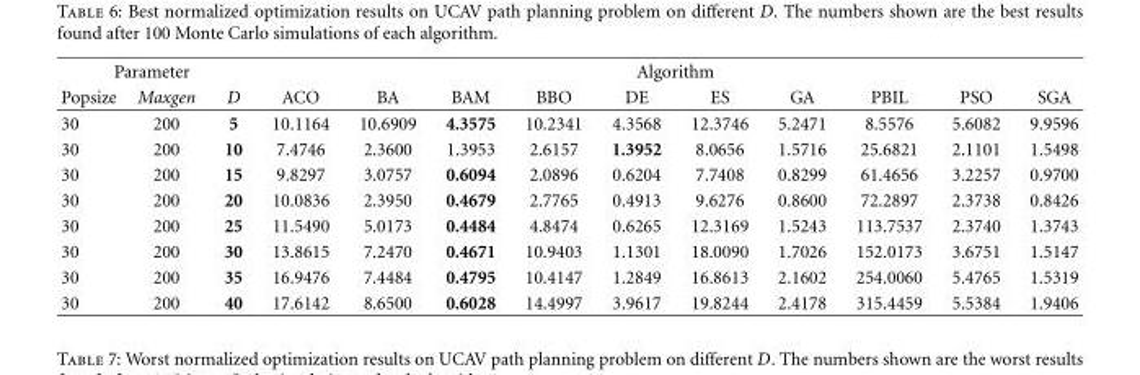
<table><thead><tr><td colspan="3">Parameter</td><td colspan="10">Algorithm</td></tr><tr><td>Popsize</td><td>Maxgen</td><td>D</td><td>ACO</td><td>BA</td><td>BAM</td><td>BBO</td><td>DE</td><td>ES</td><td>GA</td><td>PBIL</td><td>PSO</td><td>SGA</td></tr></thead><tbody><tr><td>30</td><td>200</td><td>5</td><td>10.1164</td><td>10.6909</td><td>4.3575</td><td>10.2341</td><td>4.3568</td><td>12.3746</td><td>5.2471</td><td>8.5576</td><td>5.6082</td><td>9.9596</td></tr><tr><td>30</td><td>200</td><td>10</td><td>7.4746</td><td>2.3600</td><td>1.3953</td><td>2.6157</td><td>1.3952</td><td>8.0656</td><td>1.5716</td><td>25.6821</td><td>2.1101</td><td>1.5498</td></tr><tr><td>30</td><td>200</td><td>15</td><td>9.8297</td><td>3.0757</td><td>0.6094</td><td>2.0896</td><td>0.6204</td><td>7.7408</td><td>0.8299</td><td>61.4656</td><td>3.2257</td><td>0.9700</td></tr><tr><td>30</td><td>200</td><td>20</td><td>10.0836</td><td>2.3950</td><td>0.4679</td><td>2.7765</td><td>0.4913</td><td>9.6276</td><td>0.8600</td><td>72.2897</td><td>2.3738</td><td>0.8426</td></tr><tr><td>30</td><td>200</td><td>25</td><td>11.5490</td><td>5.0173</td><td>0.4484</td><td>4.8474</td><td>0.6265</td><td>12.3169</td><td>1.5243</td><td>113.7537</td><td>2.3740</td><td>1.3743</td></tr><tr><td>30</td><td>200</td><td>30</td><td>13.8615</td><td>7.2470</td><td>0.4671</td><td>10.9403</td><td>1.1301</td><td>18.0090</td><td>1.7026</td><td>152.0173</td><td>3.6751</td><td>1.5147</td></tr><tr><td>30</td><td>200</td><td>35</td><td>16.9476</td><td>7.4484</td><td>0.4795</td><td>10.4147</td><td>1.2849</td><td>16.8613</td><td>2.1602</td><td>254.0060</td><td>5.4765</td><td>1.5319</td></tr><tr><td>30</td><td>200</td><td>40</td><td>17.6142</td><td>8.6500</td><td>0.6028</td><td>14.4997</td><td>3.9617</td><td>19.8244</td><td>2.4178</td><td>315.4459</td><td>5.5384</td><td>1.9406</td></tr></tbody></table>